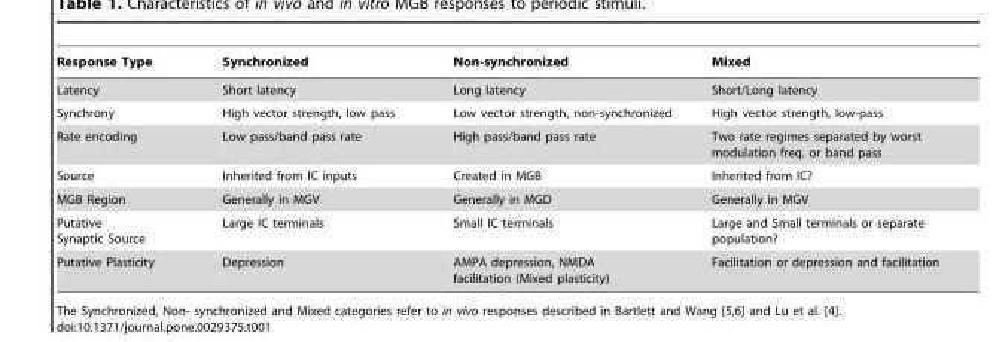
<table><thead><tr><td>Response Type</td><td>Synchronized</td><td>Non-synchronized</td><td>Mixed</td></tr></thead><tbody><tr><td>Latency</td><td>Short latency</td><td>Long latency</td><td>Short/Long latency</td></tr><tr><td>Synchrony</td><td>High vector strength, low pass</td><td>Low vector strength, non-synchronized</td><td>High vector strength, low-pass</td></tr><tr><td>Rate encoding</td><td>Low pass/band pass rate</td><td>High pass/band pass rate</td><td>Two rate regimes separated by worst modulation freq. or band pass</td></tr><tr><td>Source</td><td>Inherited from IC inputs</td><td>Created in MGB</td><td>Inherited from IC?</td></tr><tr><td>MGB Region</td><td>Generally in MGV</td><td>Generally in MGD</td><td>Generally in MGV</td></tr><tr><td>Putative Synaptic Source</td><td>Large IC terminals</td><td>Small IC terminals</td><td>Large and Small terminals or separate population?</td></tr><tr><td>Putative Plasticity</td><td>Depression</td><td>AMPA depression, NMDA facilitation (Mixed plasticity)</td><td>Facilitation or depression and facilitation</td></tr></tbody></table>